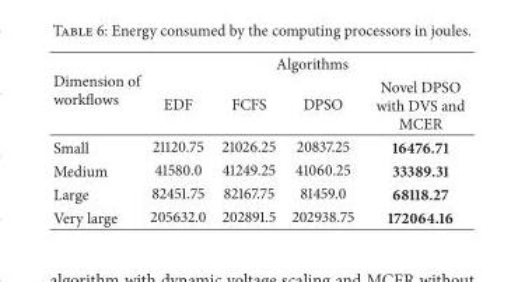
<table><thead><tr><td rowspan="2">Dimension of workflows</td><td colspan="4">Algorithms</td></tr><tr><td>EDF</td><td>FCFS</td><td>DPSO</td><td>Novel DPSO with DVS and MCER</td></tr></thead><tbody><tr><td>Small</td><td>21120.75</td><td>21026.25</td><td>20837.25</td><td>16476.71</td></tr><tr><td>Medium</td><td>41580.0</td><td>41249.25</td><td>41060.25</td><td>33389.31</td></tr><tr><td>Large</td><td>82451.75</td><td>82167.75</td><td>81459.0</td><td>68118.27</td></tr><tr><td>Very large</td><td>205632.0</td><td>202891.5</td><td>202938.75</td><td>172064.16</td></tr></tbody></table>